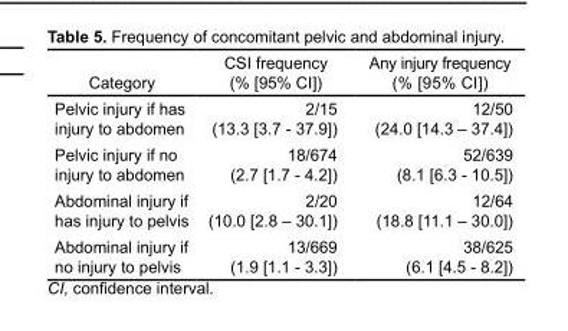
<table><thead><tr><td>Category</td><td>CSI frequency (% [95% CI])</td><td>Any injury frequency (% [95% CI])</td></tr></thead><tbody><tr><td>Pelvic injury if has injury to abdomen</td><td>2/15 (13.3 [3.7 - 37.9])</td><td>12/50 (24.0 [14.3 – 37.4])</td></tr><tr><td>Pelvic injury if no injury to abdomen</td><td>18/674 (2.7 [1.7 - 4.2])</td><td>52/639 (8.1 [6.3 - 10.5])</td></tr><tr><td>Abdominal injury if has injury to pelvis</td><td>2/20 (10.0 [2.8 – 30.1])</td><td>12/64 (18.8 [11.1 – 30.0])</td></tr><tr><td>Abdominal injury if no injury to pelvis</td><td>13/669 (1.9 [1.1 - 3.3])</td><td>38/625 (6.1 [4.5 - 8.2])</td></tr></tbody></table>